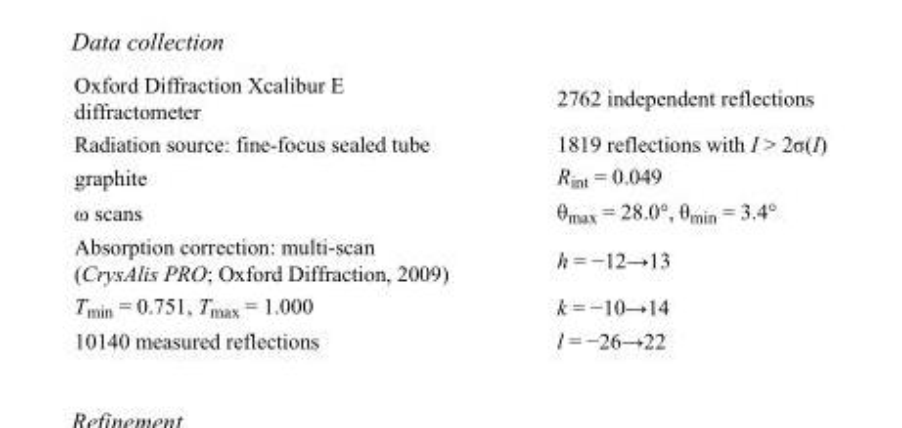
<table><tbody><tr><td>Oxford Diffraction Xcalibur E diffractometer</td><td>2762 independent reflections</td></tr><tr><td>Radiation source: fine-focus sealed tube</td><td>1819 reflections with I &gt; 2σ(I)</td></tr><tr><td>graphite</td><td>R<sub>int</sub> = 0.049</td></tr><tr><td>ω scans</td><td>θ<sub>max</sub> = 28.0°, θ<sub>min</sub> = 3.4°</td></tr><tr><td>Absorption correction: multi-scan (CrysAlis PRO; Oxford Diffraction, 2009)</td><td>h = −12→13</td></tr><tr><td>T<sub>min</sub> = 0.751, T<sub>max</sub> = 1.000</td><td>k = −10→14</td></tr><tr><td>10140 measured reflections</td><td>l = −26→22</td></tr></tbody></table>